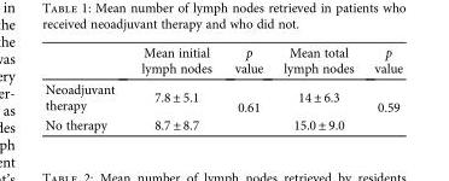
<table><thead><tr><td></td><td>Mean initial lymph nodes</td><td>p value</td><td>Mean total lymph nodes</td><td>p value</td></tr></thead><tbody><tr><td>Neoadjuvant therapy</td><td>7.8 ± 5.1</td><td rowspan="2">0.61</td><td>14 ± 6.3</td><td rowspan="2">0.59</td></tr><tr><td>No therapy</td><td>8.7 ± 8.7</td><td>15.0 ± 9.0</td></tr></tbody></table>